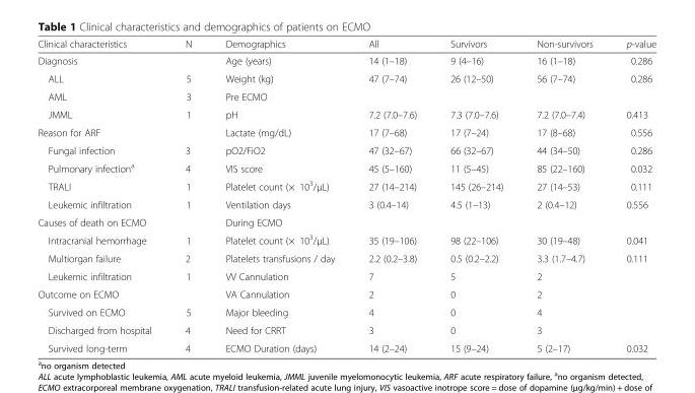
<table><thead><tr><td>Clinical characteristics</td><td>N</td><td>Demographics</td><td>All</td><td>Survivors</td><td>Non-survivors</td><td>p-value</td></tr></thead><tbody><tr><td>Diagnosis</td><td></td><td>Age (years)</td><td>14 (1–18)</td><td>9 (4–16)</td><td>16 (1–18)</td><td>0.286</td></tr><tr><td>ALL</td><td>5</td><td>Weight (kg)</td><td>47 (7–74)</td><td>26 (12–50)</td><td>56 (7–74)</td><td>0.286</td></tr><tr><td>AML</td><td>3</td><td>Pre ECMO</td><td></td><td></td><td></td><td></td></tr><tr><td>JMML</td><td>1</td><td>pH</td><td>7.2 (7.0–7.6)</td><td>7.3 (7.0–7.6)</td><td>7.2 (7.0–7.4)</td><td>0.413</td></tr><tr><td>Reason for ARF</td><td></td><td>Lactate (mg/dL)</td><td>17 (7–68)</td><td>17 (7–24)</td><td>17 (8–68)</td><td>0.556</td></tr><tr><td>Fungal infection</td><td>3</td><td>pO2/FiO2</td><td>47 (32–67)</td><td>66 (32–67)</td><td>44 (34–50)</td><td>0.286</td></tr><tr><td>Pulmonary infection<sup>a</sup></td><td>4</td><td>VIS score</td><td>45 (5–160)</td><td>11 (5–45)</td><td>85 (22–160)</td><td>0.032</td></tr><tr><td>TRALI</td><td>1</td><td>Platelet count (× 10<sup>3</sup>/μL)</td><td>27 (14–214)</td><td>145 (26–214)</td><td>27 (14–53)</td><td>0.111</td></tr><tr><td>Leukemic infiltration</td><td>1</td><td>Ventilation days</td><td>3 (0.4–14)</td><td>4.5 (1–13)</td><td>2 (0.4–12)</td><td>0.556</td></tr><tr><td>Causes of death on ECMO</td><td></td><td>During ECMO</td><td></td><td></td><td></td><td></td></tr><tr><td>Intracranial hemorrhage</td><td>1</td><td>Platelet count (× 10<sup>3</sup>/μL)</td><td>35 (19–106)</td><td>98 (22–106)</td><td>30 (19–48)</td><td>0.041</td></tr><tr><td>Multiorgan failure</td><td>2</td><td>Platelets transfusions / day</td><td>2.2 (0.2–3.8)</td><td>0.5 (0.2–2.2)</td><td>3.3 (1.7–4.7)</td><td>0.111</td></tr><tr><td>Leukemic infiltration</td><td>1</td><td>VV Cannulation</td><td>7</td><td>5</td><td>2</td><td></td></tr><tr><td>Outcome on ECMO</td><td></td><td>VA Cannulation</td><td>2</td><td>0</td><td>2</td><td></td></tr><tr><td>Survived on ECMO</td><td>5</td><td>Major bleeding</td><td>4</td><td>0</td><td>4</td><td></td></tr><tr><td>Discharged from hospital</td><td>4</td><td>Need for CRRT</td><td>3</td><td>0</td><td>3</td><td></td></tr><tr><td>Survived long-term</td><td>4</td><td>ECMO Duration (days)</td><td>14 (2–24)</td><td>15 (9–24)</td><td>5 (2–17)</td><td>0.032</td></tr></tbody></table>